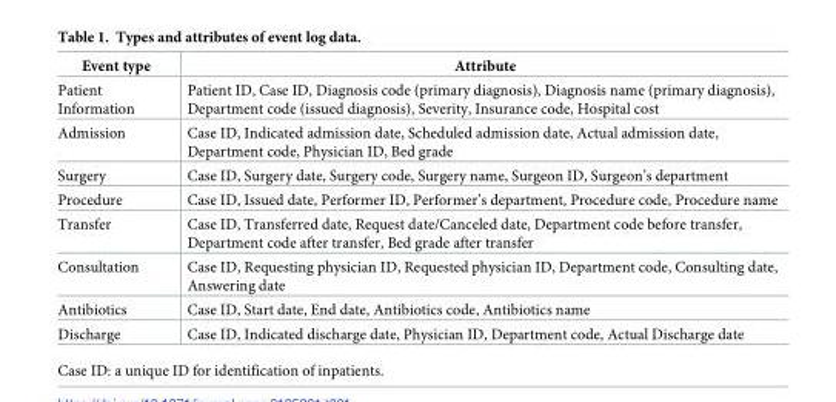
<table><thead><tr><td>Event type</td><td>Attribute</td></tr></thead><tbody><tr><td>Patient Information</td><td>Patient ID, Case ID, Diagnosis code (primary diagnosis), Diagnosis name (primary diagnosis), Department code (issued diagnosis), Severity, Insurance code, Hospital cost</td></tr><tr><td>Admission</td><td>Case ID, Indicated admission date, Scheduled admission date, Actual admission date, Department code, Physician ID, Bed grade</td></tr><tr><td>Surgery</td><td>Case ID, Surgery date, Surgery code, Surgery name, Surgeon ID, Surgeon’s department</td></tr><tr><td>Procedure</td><td>Case ID, Issued date, Performer ID, Performer’s department, Procedure code, Procedure name</td></tr><tr><td>Transfer</td><td>Case ID, Transferred date, Request date/Canceled date, Department code before transfer, Department code after transfer, Bed grade after transfer</td></tr><tr><td>Consultation</td><td>Case ID, Requesting physician ID, Requested physician ID, Department code, Consulting date, Answering date</td></tr><tr><td>Antibiotics</td><td>Case ID, Start date, End date, Antibiotics code, Antibiotics name</td></tr><tr><td>Discharge</td><td>Case ID, Indicated discharge date, Physician ID, Department code, Actual Discharge date</td></tr></tbody></table>